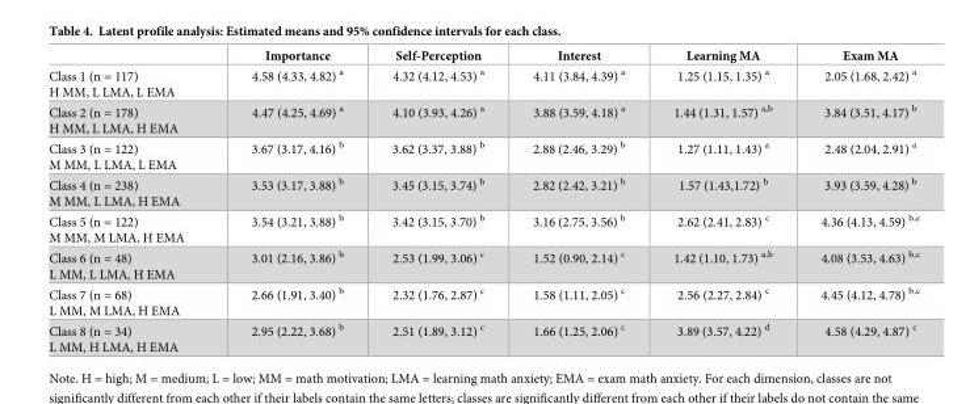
<table><thead><tr><td></td><td>Importance</td><td>Self-Perception</td><td>Interest</td><td>Learning MA</td><td>Exam MA</td></tr></thead><tbody><tr><td>Class 1 (n = 117) H MM, L LMA, L EMA</td><td>4.58 (4.33, 4.82) <sup>a</sup></td><td>4.32 (4.12, 4.53) <sup>a</sup></td><td>4.11 (3.84, 4.39) <sup>a</sup></td><td>1.25 (1.15, 1.35) <sup>a</sup></td><td>2.05 (1.68, 2.42) <sup>a</sup></td></tr><tr><td>Class 2 (n = 178) H MM, L LMA, H EMA</td><td>4.47 (4.25, 4.69) <sup>a</sup></td><td>4.10 (3.93, 4.26) <sup>a</sup></td><td>3.88 (3.59, 4.18) <sup>a</sup></td><td>1.44 (1.31, 1.57) <sup>a,b</sup></td><td>3.84 (3.51, 4.17) <sup>b</sup></td></tr><tr><td>Class 3 (n = 122) M MM, L LMA, L EMA</td><td>3.67 (3.17, 4.16) <sup>b</sup></td><td>3.62 (3.37, 3.88) <sup>b</sup></td><td>2.88 (2.46, 3.29) <sup>b</sup></td><td>1.27 (1.11, 1.43) <sup>a</sup></td><td>2.48 (2.04, 2.91) <sup>a</sup></td></tr><tr><td>Class 4 (n = 238) M MM, L LMA, H EMA</td><td>3.53 (3.17, 3.88) <sup>b</sup></td><td>3.45 (3.15, 3.74) <sup>b</sup></td><td>2.82 (2.42, 3.21) <sup>b</sup></td><td>1.57 (1.43,1.72) <sup>b</sup></td><td>3.93 (3.59, 4.28) <sup>b</sup></td></tr><tr><td>Class 5 (n = 122) M MM, M LMA, H EMA</td><td>3.54 (3.21, 3.88) <sup>b</sup></td><td>3.42 (3.15, 3.70) <sup>b</sup></td><td>3.16 (2.75, 3.56) <sup>b</sup></td><td>2.62 (2.41, 2.83) <sup>c</sup></td><td>4.36 (4.13, 4.59) <sup>b,c</sup></td></tr><tr><td>Class 6 (n = 48) L MM, L LMA, H EMA</td><td>3.01 (2.16, 3.86) <sup>b</sup></td><td>2.53 (1.99, 3.06) <sup>c</sup></td><td>1.52 (0.90, 2.14) <sup>c</sup></td><td>1.42 (1.10, 1.73) <sup>a,b</sup></td><td>4.08 (3.53, 4.63) <sup>b,c</sup></td></tr><tr><td>Class 7 (n = 68) L MM, M LMA, H EMA</td><td>2.66 (1.91, 3.40) <sup>b</sup></td><td>2.32 (1.76, 2.87) <sup>c</sup></td><td>1.58 (1.11, 2.05) <sup>c</sup></td><td>2.56 (2.27, 2.84) <sup>c</sup></td><td>4.45 (4.12, 4.78) <sup>b,c</sup></td></tr><tr><td>Class 8 (n = 34) L MM, H LMA, H EMA</td><td>2.95 (2.22, 3.68) <sup>b</sup></td><td>2.51 (1.89, 3.12) <sup>c</sup></td><td>1.66 (1.25, 2.06) <sup>c</sup></td><td>3.89 (3.57, 4.22) <sup>d</sup></td><td>4.58 (4.29, 4.87) <sup>c</sup></td></tr></tbody></table>